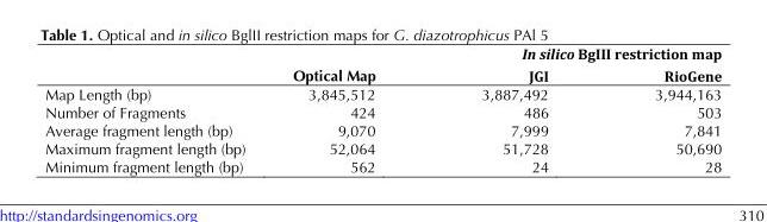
<table><thead><tr><td rowspan="2"></td><td rowspan="2">Optical Map</td><td colspan="2">In silico BgIII restriction map</td></tr><tr><td>JGI</td><td>RioGene</td></tr></thead><tbody><tr><td>Map Length (bp)</td><td>3,845,512</td><td>3,887,492</td><td>3,944,163</td></tr><tr><td>Number of Fragments</td><td>424</td><td>486</td><td>503</td></tr><tr><td>Average fragment length (bp)</td><td>9,070</td><td>7,999</td><td>7,841</td></tr><tr><td>Maximum fragment length (bp)</td><td>52,064</td><td>51,728</td><td>50,690</td></tr><tr><td>Minimum fragment length (bp)</td><td>562</td><td>24</td><td>28</td></tr></tbody></table>